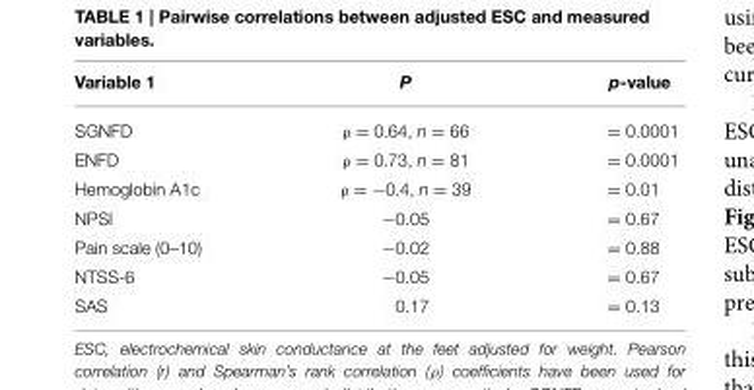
<table><thead><tr><td>Variable 1</td><td>P</td><td>p-value</td></tr></thead><tbody><tr><td>SGNFD</td><td>ρ = 0.64, n = 66</td><td>= 0.0001</td></tr><tr><td>ENFD</td><td>ρ = 0.73, n = 81</td><td>= 0.0001</td></tr><tr><td>Hemoglobin A1c</td><td>ρ = −0.4, n = 39</td><td>= 0.01</td></tr><tr><td>NPSI</td><td>−0.05</td><td>= 0.67</td></tr><tr><td>Pain scale (0–10)</td><td>−0.02</td><td>= 0.88</td></tr><tr><td>NTSS-6</td><td>−0.05</td><td>= 0.67</td></tr><tr><td>SAS</td><td>0.17</td><td>= 0.13</td></tr></tbody></table>